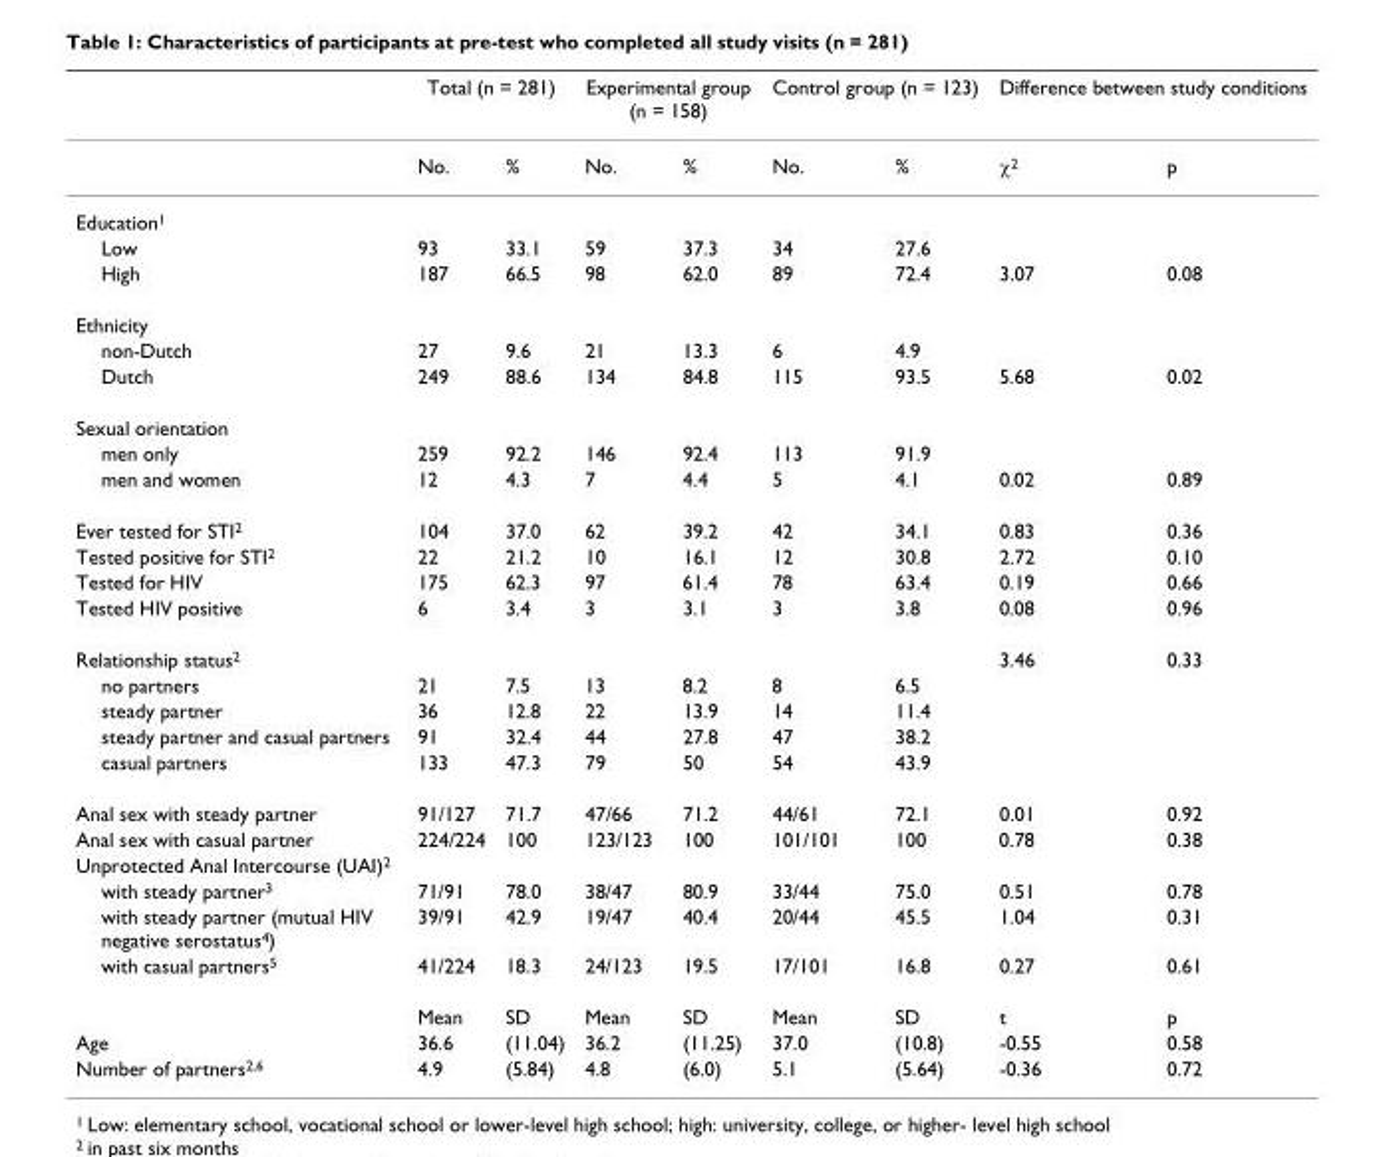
<table><thead><tr><td rowspan="2"></td><td colspan="2">Total (n = 281)</td><td colspan="2">Experimental group (n = 158)</td><td colspan="2">Control group (n = 123)</td><td colspan="2">Difference between study conditions</td></tr><tr><td>No.</td><td>%</td><td>No.</td><td>%</td><td>No.</td><td>%</td><td>χ<sup>2</sup></td><td>p</td></tr></thead><tbody><tr><td colspan="9">Education<sup>1</sup></td></tr><tr><td>Low</td><td>93</td><td>33.1</td><td>59</td><td>37.3</td><td>34</td><td>27.6</td><td></td><td></td></tr><tr><td>High</td><td>187</td><td>66.5</td><td>98</td><td>62.0</td><td>89</td><td>72.4</td><td>3.07</td><td>0.08</td></tr><tr><td colspan="9">Ethnicity</td></tr><tr><td>non-Dutch</td><td>27</td><td>9.6</td><td>21</td><td>13.3</td><td>6</td><td>4.9</td><td></td><td></td></tr><tr><td>Dutch</td><td>249</td><td>88.6</td><td>134</td><td>84.8</td><td>115</td><td>93.5</td><td>5.68</td><td>0.02</td></tr><tr><td colspan="9">Sexual orientation</td></tr><tr><td>men only</td><td>259</td><td>92.2</td><td>146</td><td>92.4</td><td>113</td><td>91.9</td><td></td><td></td></tr><tr><td>men and women</td><td>12</td><td>4.3</td><td>7</td><td>4.4</td><td>5</td><td>4.1</td><td>0.02</td><td>0.89</td></tr><tr><td>Ever tested for STI<sup>2</sup></td><td>104</td><td>37.0</td><td>62</td><td>39.2</td><td>42</td><td>34.1</td><td>0.83</td><td>0.36</td></tr><tr><td>Tested positive for STI<sup>2</sup></td><td>22</td><td>21.2</td><td>10</td><td>16.1</td><td>12</td><td>30.8</td><td>2.72</td><td>0.10</td></tr><tr><td>Tested for HIV</td><td>175</td><td>62.3</td><td>97</td><td>61.4</td><td>78</td><td>63.4</td><td>0.19</td><td>0.66</td></tr><tr><td>Tested HIV positive</td><td>6</td><td>3.4</td><td>3</td><td>3.1</td><td>3</td><td>3.8</td><td>0.08</td><td>0.96</td></tr><tr><td>Relationship status<sup>2</sup></td><td></td><td></td><td></td><td></td><td></td><td></td><td>3.46</td><td>0.33</td></tr><tr><td>no partners</td><td>21</td><td>7.5</td><td>13</td><td>8.2</td><td>8</td><td>6.5</td><td></td><td></td></tr><tr><td>steady partner</td><td>36</td><td>12.8</td><td>22</td><td>13.9</td><td>14</td><td>11.4</td><td></td><td></td></tr><tr><td>steady partner and casual partners</td><td>91</td><td>32.4</td><td>44</td><td>27.8</td><td>47</td><td>38.2</td><td></td><td></td></tr><tr><td>casual partners</td><td>133</td><td>47.3</td><td>79</td><td>50</td><td>54</td><td>43.9</td><td></td><td></td></tr><tr><td>Anal sex with steady partner</td><td>91/127</td><td>71.7</td><td>47/66</td><td>71.2</td><td>44/61</td><td>72.1</td><td>0.01</td><td>0.92</td></tr><tr><td>Anal sex with casual partner</td><td>224/224</td><td>100</td><td>123/123</td><td>100</td><td>101/101</td><td>100</td><td>0.78</td><td>0.38</td></tr><tr><td colspan="9">Unprotected Anal Intercourse (UAI)<sup>2</sup></td></tr><tr><td>with steady partner<sup>3</sup></td><td>71/91</td><td>78.0</td><td>38/47</td><td>80.9</td><td>33/44</td><td>75.0</td><td>0.51</td><td>0.78</td></tr><tr><td>with steady partner (mutual HIV negative serostatus<sup>4</sup>)</td><td>39/91</td><td>42.9</td><td>19/47</td><td>40.4</td><td>20/44</td><td>45.5</td><td>1.04</td><td>0.31</td></tr><tr><td rowspan="2">with casual partners<sup>5</sup></td><td>41/224</td><td>18.3</td><td>24/123</td><td>19.5</td><td>17/101</td><td>16.8</td><td>0.27</td><td>0.61</td></tr><tr><td>Mean</td><td>SD</td><td>Mean</td><td>SD</td><td>Mean</td><td>SD</td><td>t</td><td>p</td></tr><tr><td>Age</td><td>36.6</td><td>(11.04)</td><td>36.2</td><td>(11.25)</td><td>37.0</td><td>(10.8)</td><td>-0.55</td><td>0.58</td></tr><tr><td>Number of partners<sup>2,6</sup></td><td>4.9</td><td>(5.84)</td><td>4.8</td><td>(6.0)</td><td>5.1</td><td>(5.64)</td><td>-0.36</td><td>0.72</td></tr></tbody></table>